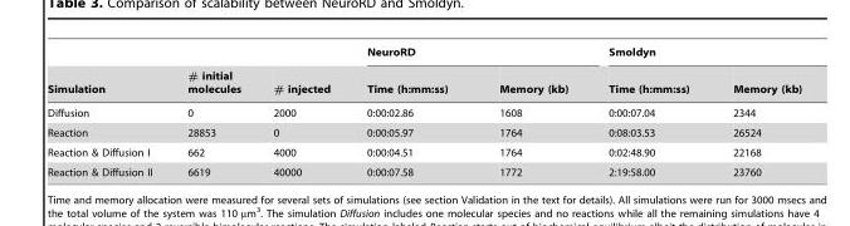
<table><thead><tr><td rowspan="2">Simulation</td><td rowspan="2"># initial molecules</td><td rowspan="2"># injected</td><td colspan="2">NeuroRD</td><td colspan="2">Smoldyn</td></tr><tr><td>Time (h:mm:ss)</td><td>Memory (kb)</td><td>Time (h:mm:ss)</td><td>Memory (kb)</td></tr></thead><tbody><tr><td>Diffusion</td><td>0</td><td>2000</td><td>0:00:02.86</td><td>1608</td><td>0:00:07.04</td><td>2344</td></tr><tr><td>Reaction</td><td>28853</td><td>0</td><td>0:00:05.97</td><td>1764</td><td>0:08:03.53</td><td>26524</td></tr><tr><td>Reaction &amp; Diffusion I</td><td>662</td><td>4000</td><td>0:00:04.51</td><td>1764</td><td>0:02:48.90</td><td>22168</td></tr><tr><td>Reaction &amp; Diffusion II</td><td>6619</td><td>40000</td><td>0:00:07.58</td><td>1772</td><td>2:19:58.00</td><td>23760</td></tr></tbody></table>